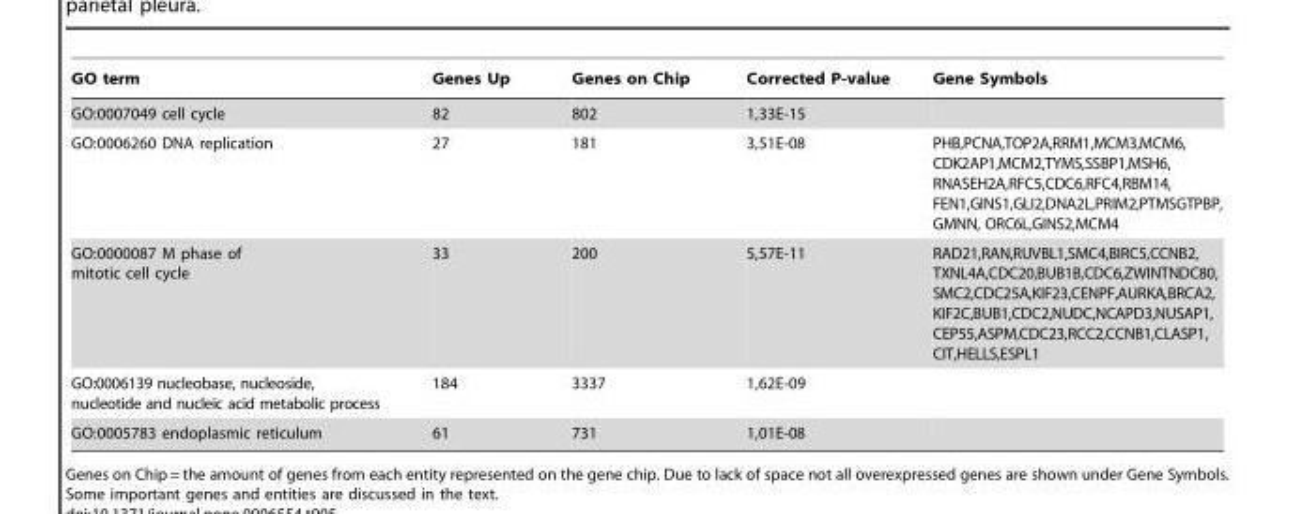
<table><thead><tr><td>GO term</td><td>Genes Up</td><td>Genes on Chip</td><td>Corrected P-value</td><td>Gene Symbols</td></tr></thead><tbody><tr><td>GO:0007049 cell cycle</td><td>82</td><td>802</td><td>1,33E-15</td><td></td></tr><tr><td>GO:0006260 DNA replication</td><td>27</td><td>181</td><td>3,51E-08</td><td>PHB,PCNA,TOP2A,RRM1,MCM3,MCM6, CDK2AP1,MCM2,TYMS,SSBP1,MSH6, RNASEH2A,RFC5,CDC6,RFC4,RBM14, FEN1,GINS1,GLI2,DNA2L,PRIM2,PTMSGTPBP, GMNN, ORC6L,GINS2,MCM4</td></tr><tr><td>GO:0000087 M phase of mitotic cell cycle</td><td>33</td><td>200</td><td>5,57E-11</td><td>RAD21,RAN,RUVBL1,SMC4,BIRC5,CCNB2, TXNL4A,CDC20,BUB1B,CDC6,ZWINTNDC80, SMC2,CDC25A,KIF23,CENPF,AURKA,BRCA2, KIF2C,BUB1,CDC2,NUDC,NCAPD3,NUSAP1, CEP55,ASPM,CDC23,RCC2,CCNB1,CLASP1, CIT,HELLS,ESPL1</td></tr><tr><td>GO:0006139 nucleobase, nucleoside, nucleotide and nucleic acid metabolic process</td><td>184</td><td>3337</td><td>1,62E-09</td><td></td></tr><tr><td>GO:0005783 endoplasmic reticulum</td><td>61</td><td>731</td><td>1,01E-08</td><td></td></tr></tbody></table>